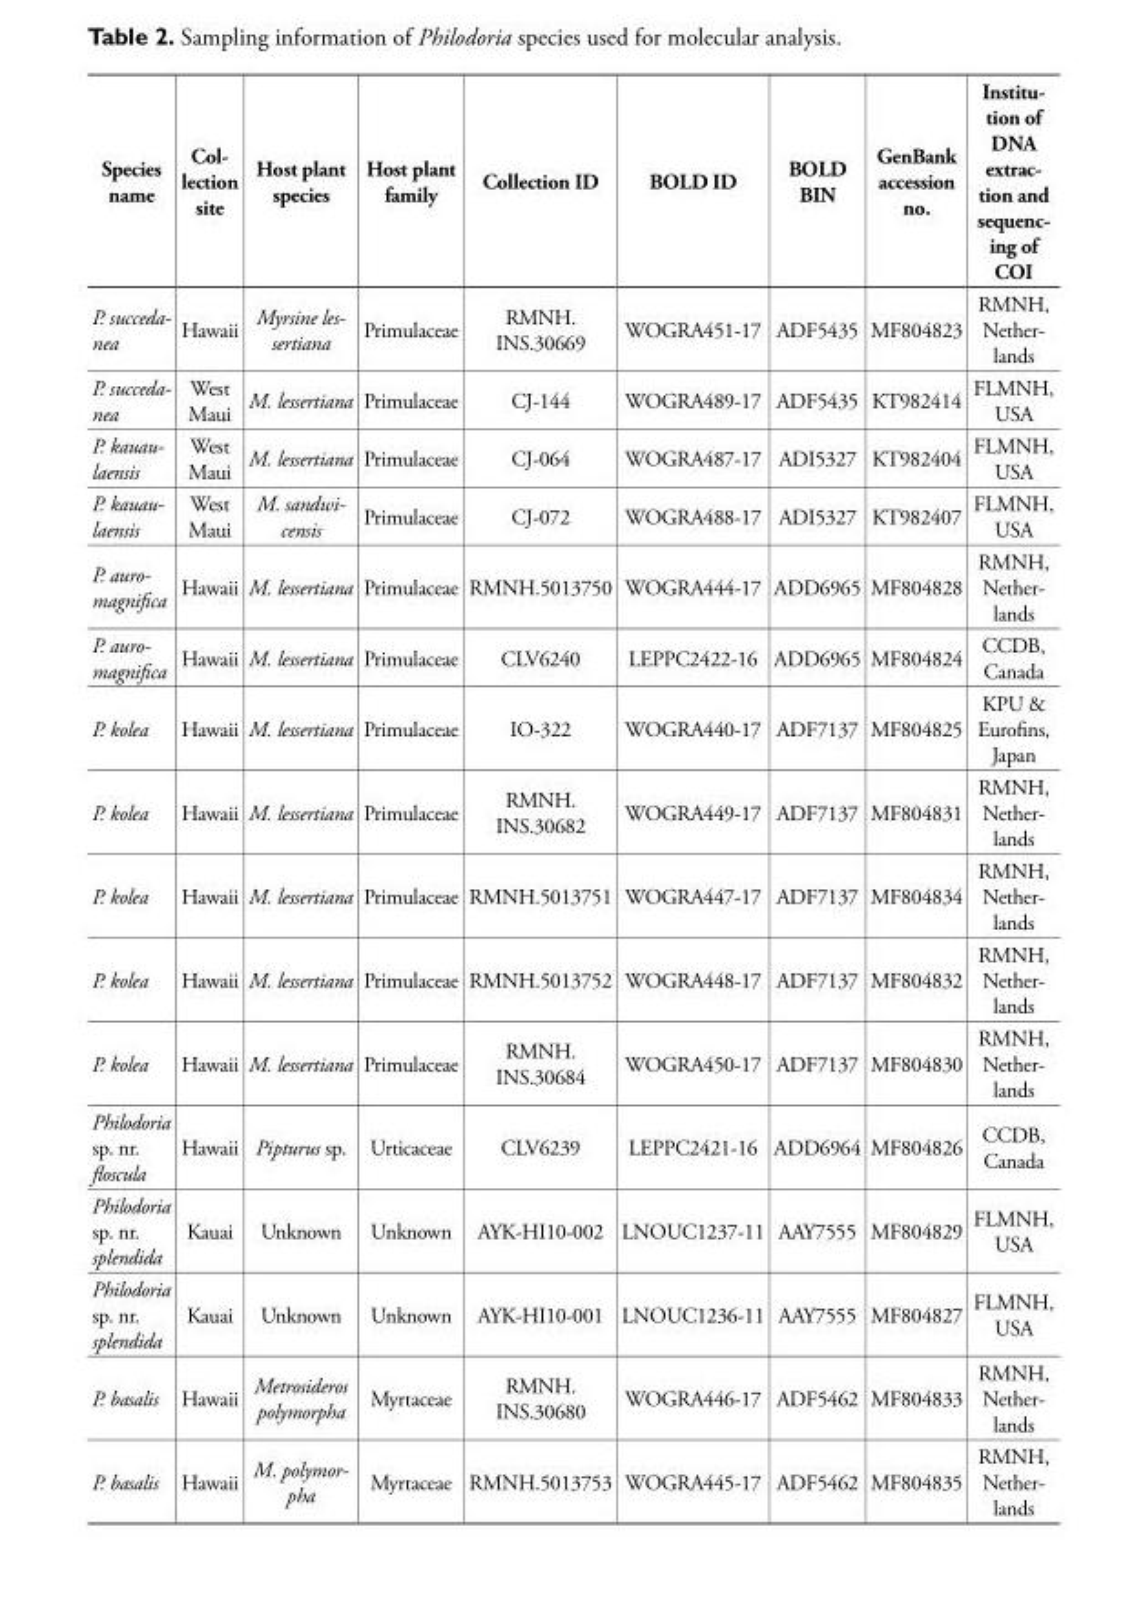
<table><thead><tr><td>Species name</td><td>Col- lection site</td><td>Host plant species</td><td>Host plant family</td><td>Collection ID</td><td>BOLD ID</td><td>BOLD BIN</td><td>GenBank accession no.</td><td>Institu- tion of DNA extrac- tion and sequenc- ing of COI</td></tr></thead><tbody><tr><td>P. succeda- nea</td><td>Hawaii</td><td>Myrsine les- sertiana</td><td>Primulaceae</td><td>RMNH. INS.30669</td><td>WOGRA451-17</td><td>ADF5435</td><td>MF804823</td><td>RMNH, Nether- lands</td></tr><tr><td>P. succeda- nea</td><td>West Maui</td><td>M. lessertiana</td><td>Primulaceae</td><td>CJ-144</td><td>WOGRA489-17</td><td>ADF5435</td><td>KT982414</td><td>FLMNH, USA</td></tr><tr><td>P. kauau- laensis</td><td>West Maui</td><td>M. lessertiana</td><td>Primulaceae</td><td>CJ-064</td><td>WOGRA487-17</td><td>ADI5327</td><td>KT982404</td><td>FLMNH, USA</td></tr><tr><td>P. kauau- laensis</td><td>West Maui</td><td>M. sandwi- censis</td><td>Primulaceae</td><td>CJ-072</td><td>WOGRA488-17</td><td>ADI5327</td><td>KT982407</td><td>FLMNH, USA</td></tr><tr><td>P. auro- magnifica</td><td>Hawaii</td><td>M. lessertiana</td><td>Primulaceae</td><td>RMNH.5013750</td><td>WOGRA444-17</td><td>ADD6965</td><td>MF804828</td><td>RMNH, Nether- lands</td></tr><tr><td>P. auro- magnifica</td><td>Hawaii</td><td>M. lessertiana</td><td>Primulaceae</td><td>CLV6240</td><td>LEPPC2422-16</td><td>ADD6965</td><td>MF804824</td><td>CCDB, Canada</td></tr><tr><td>P. kolea</td><td>Hawaii</td><td>M. lessertiana</td><td>Primulaceae</td><td>IO-322</td><td>WOGRA440-17</td><td>ADF7137</td><td>MF804825</td><td>KPU &amp; Eurofins, Japan</td></tr><tr><td>P. kolea</td><td>Hawaii</td><td>M. lessertiana</td><td>Primulaceae</td><td>RMNH. INS.30682</td><td>WOGRA449-17</td><td>ADF7137</td><td>MF804831</td><td>RMNH, Nether- lands</td></tr><tr><td>P. kolea</td><td>Hawaii</td><td>M. lessertiana</td><td>Primulaceae</td><td>RMNH.5013751</td><td>WOGRA447-17</td><td>ADF7137</td><td>MF804834</td><td>RMNH, Nether- lands</td></tr><tr><td>P. kolea</td><td>Hawaii</td><td>M. lessertiana</td><td>Primulaceae</td><td>RMNH.5013752</td><td>WOGRA448-17</td><td>ADF7137</td><td>MF804832</td><td>RMNH, Nether- lands</td></tr><tr><td>P. kolea</td><td>Hawaii</td><td>M. lessertiana</td><td>Primulaceae</td><td>RMNH. INS.30684</td><td>WOGRA450-17</td><td>ADF7137</td><td>MF804830</td><td>RMNH, Nether- lands</td></tr><tr><td>Philodoria sp. nr. floscula</td><td>Hawaii</td><td>Pipturus sp.</td><td>Urticaceae</td><td>CLV6239</td><td>LEPPC2421-16</td><td>ADD6964</td><td>MF804826</td><td>CCDB, Canada</td></tr><tr><td>Philodoria sp. nr. splendida</td><td>Kauai</td><td>Unknown</td><td>Unknown</td><td>AYK-HI10-002</td><td>LNOUC1237-11</td><td>AAY7555</td><td>MF804829</td><td>FLMNH, USA</td></tr><tr><td>Philodoria sp. nr. splendida</td><td>Kauai</td><td>Unknown</td><td>Unknown</td><td>AYK-HI10-001</td><td>LNOUC1236-11</td><td>AAY7555</td><td>MF804827</td><td>FLMNH, USA</td></tr><tr><td>P. basalis</td><td>Hawaii</td><td>Metrosideros polymorpha</td><td>Myrtaceae</td><td>RMNH. INS.30680</td><td>WOGRA446-17</td><td>ADF5462</td><td>MF804833</td><td>RMNH, Nether- lands</td></tr><tr><td>P. basalis</td><td>Hawaii</td><td>M. polymor- pha</td><td>Myrtaceae</td><td>RMNH.5013753</td><td>WOGRA445-17</td><td>ADF5462</td><td>MF804835</td><td>RMNH, Nether- lands</td></tr></tbody></table>